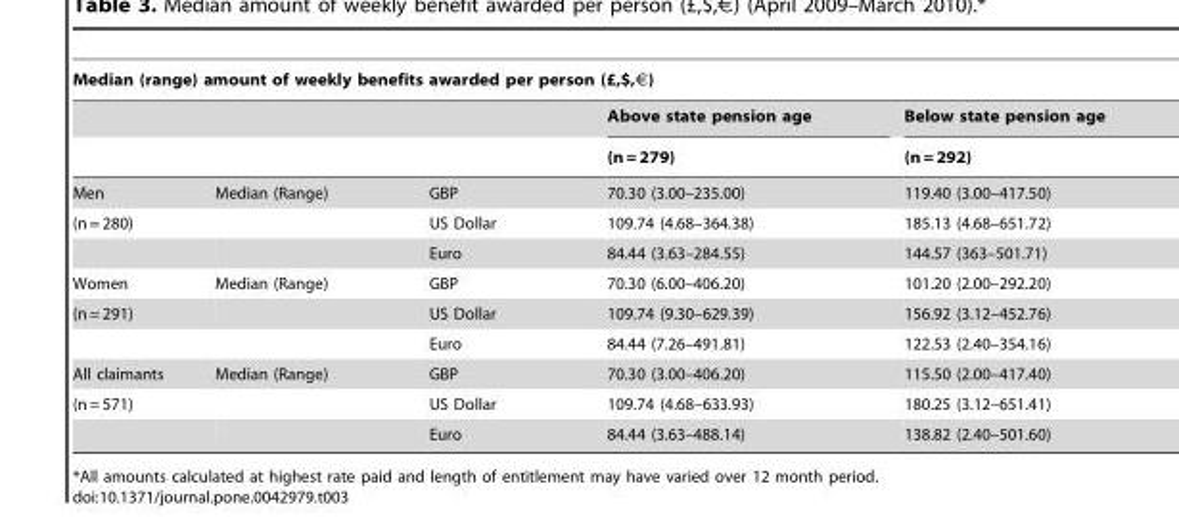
<table><thead><tr><td colspan="5">Median (range) amount of weekly benefits awarded per person (£,$,€)</td></tr><tr><td rowspan="2"></td><td rowspan="2"></td><td rowspan="2"></td><td rowspan="2">Above state pension age (n = 279)</td><td rowspan="2">Below state pension age (n = 292)</td></tr><tr></tr></thead><tbody><tr><td>Men</td><td>Median (Range)</td><td>GBP</td><td>70.30 (3.00–235.00)</td><td>119.40 (3.00–417.50)</td></tr><tr><td rowspan="2">(n = 280)</td><td></td><td>US Dollar</td><td>109.74 (4.68–364.38)</td><td>185.13 (4.68–651.72)</td></tr><tr><td></td><td>Euro</td><td>84.44 (3.63–284.55)</td><td>144.57 (363–501.71)</td></tr><tr><td>Women</td><td>Median (Range)</td><td>GBP</td><td>70.30 (6.00–406.20)</td><td>101.20 (2.00–292.20)</td></tr><tr><td rowspan="2">(n = 291)</td><td></td><td>US Dollar</td><td>109.74 (9.30–629.39)</td><td>156.92 (3.12–452.76)</td></tr><tr><td></td><td>Euro</td><td>84.44 (7.26–491.81)</td><td>122.53 (2.40–354.16)</td></tr><tr><td>All claimants</td><td>Median (Range)</td><td>GBP</td><td>70.30 (3.00–406.20)</td><td>115.50 (2.00–417.40)</td></tr><tr><td rowspan="2">(n = 571)</td><td></td><td>US Dollar</td><td>109.74 (4.68–633.93)</td><td>180.25 (3.12–651.41)</td></tr><tr><td></td><td>Euro</td><td>84.44 (3.63–488.14)</td><td>138.82 (2.40–501.60)</td></tr></tbody></table>